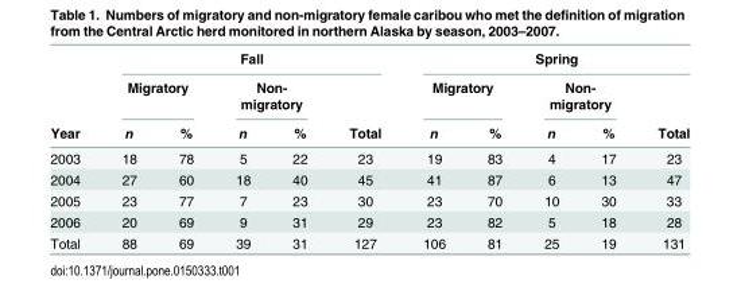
<table><thead><tr><td rowspan="3">Year</td><td colspan="5">Fall</td><td colspan="5">Spring</td></tr><tr><td colspan="2">Migratory</td><td colspan="2">Non- migratory</td><td rowspan="2">Total</td><td colspan="2">Migratory</td><td colspan="2">Non- migratory</td><td rowspan="2">Total</td></tr><tr><td>n</td><td>%</td><td>n</td><td>%</td><td>n</td><td>%</td><td>n</td><td>%</td></tr></thead><tbody><tr><td>2003</td><td>18</td><td>78</td><td>5</td><td>22</td><td>23</td><td>19</td><td>83</td><td>4</td><td>17</td><td>23</td></tr><tr><td>2004</td><td>27</td><td>60</td><td>18</td><td>40</td><td>45</td><td>41</td><td>87</td><td>6</td><td>13</td><td>47</td></tr><tr><td>2005</td><td>23</td><td>77</td><td>7</td><td>23</td><td>30</td><td>23</td><td>70</td><td>10</td><td>30</td><td>33</td></tr><tr><td>2006</td><td>20</td><td>69</td><td>9</td><td>31</td><td>29</td><td>23</td><td>82</td><td>5</td><td>18</td><td>28</td></tr><tr><td>Total</td><td>88</td><td>69</td><td>39</td><td>31</td><td>127</td><td>106</td><td>81</td><td>25</td><td>19</td><td>131</td></tr></tbody></table>